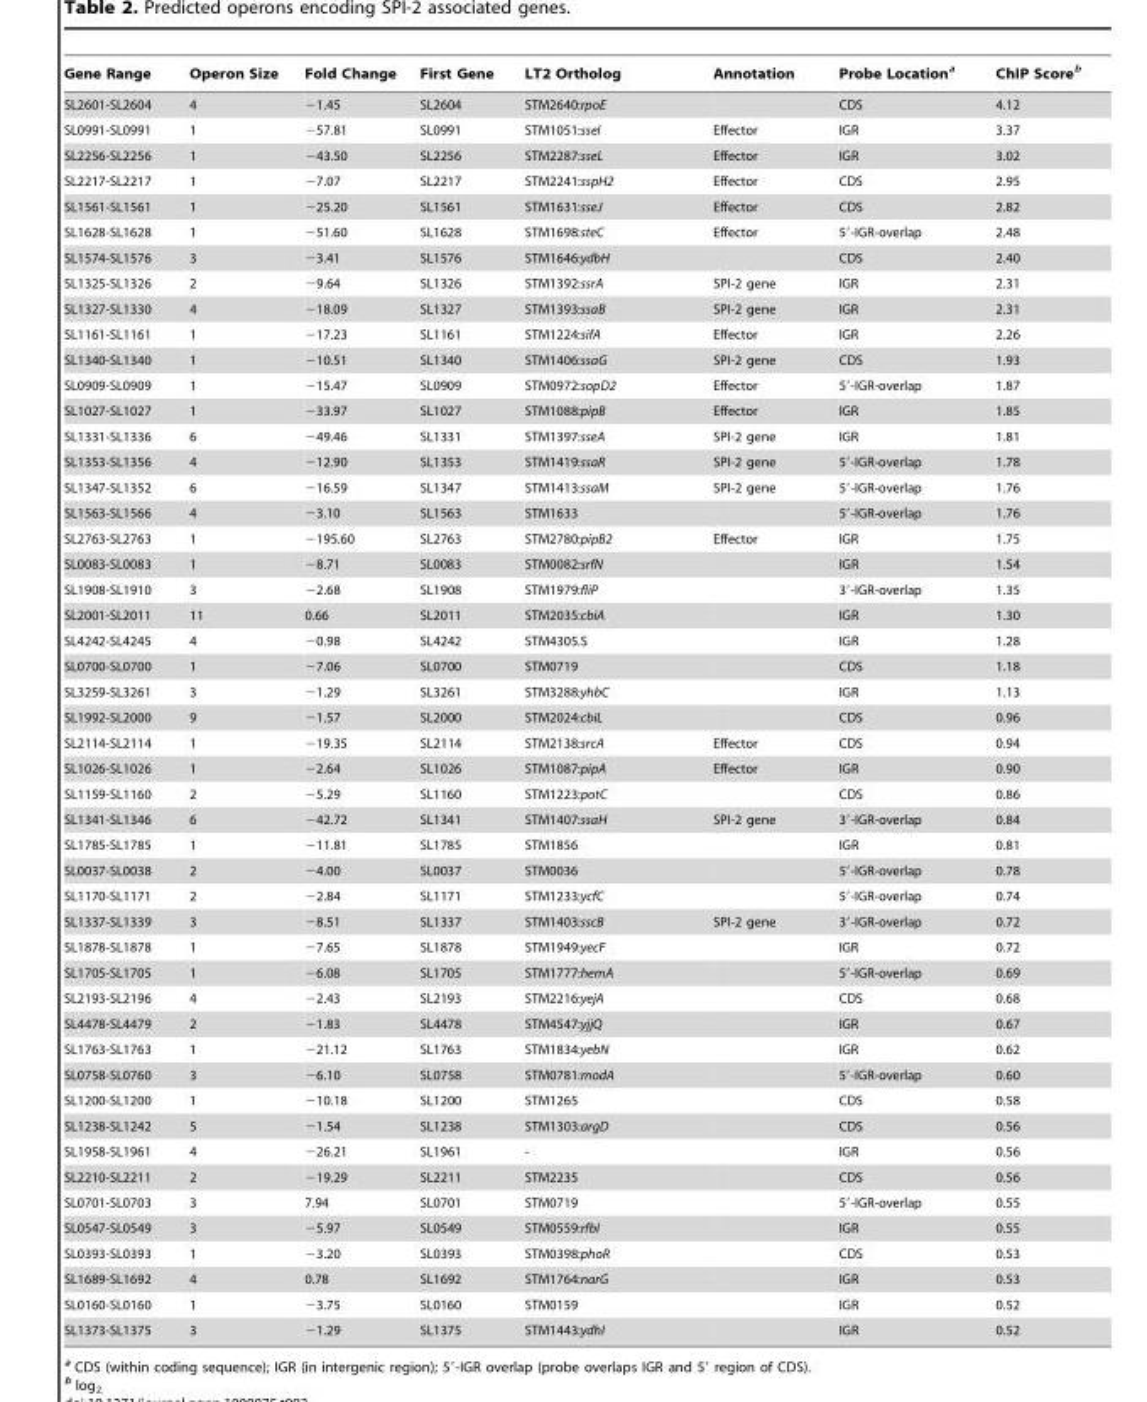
<table><thead><tr><td>Gene Range</td><td>Operon Size</td><td>Fold Change</td><td>First Gene</td><td>LT2 Ortholog</td><td>Annotation</td><td>Probe Location<sup>a</sup></td><td>ChIP Score<sup>b</sup></td></tr></thead><tbody><tr><td>SL2601-SL2604</td><td>4</td><td>−1.45</td><td>SL2604</td><td>STM2640:rpoE</td><td></td><td>CDS</td><td>4.12</td></tr><tr><td>SL0991-SL0991</td><td>1</td><td>−57.81</td><td>SL0991</td><td>STM1051:sseI</td><td>Effector</td><td>IGR</td><td>3.37</td></tr><tr><td>SL2256-SL2256</td><td>1</td><td>−43.50</td><td>SL2256</td><td>STM2287:sseL</td><td>Effector</td><td>IGR</td><td>3.02</td></tr><tr><td>SL2217-SL2217</td><td>1</td><td>−7.07</td><td>SL2217</td><td>STM2241:sspH2</td><td>Effector</td><td>CDS</td><td>2.95</td></tr><tr><td>SL1561-SL1561</td><td>1</td><td>−25.20</td><td>SL1561</td><td>STM1631:sseJ</td><td>Effector</td><td>CDS</td><td>2.82</td></tr><tr><td>SL1628-SL1628</td><td>1</td><td>−51.60</td><td>SL1628</td><td>STM1698:steC</td><td>Effector</td><td>5′-IGR-overlap</td><td>2.48</td></tr><tr><td>SL1574-SL1576</td><td>3</td><td>−3.41</td><td>SL1576</td><td>STM1646:ydbH</td><td></td><td>CDS</td><td>2.40</td></tr><tr><td>SL1325-SL1326</td><td>2</td><td>−9.64</td><td>SL1326</td><td>STM1392:ssrA</td><td>SPI-2 gene</td><td>IGR</td><td>2.31</td></tr><tr><td>SL1327-SL1330</td><td>4</td><td>−18.09</td><td>SL1327</td><td>STM1393:ssaB</td><td>SPI-2 gene</td><td>IGR</td><td>2.31</td></tr><tr><td>SL1161-SL1161</td><td>1</td><td>−17.23</td><td>SL1161</td><td>STM1224:sifA</td><td>Effector</td><td>IGR</td><td>2.26</td></tr><tr><td>SL1340-SL1340</td><td>1</td><td>−10.51</td><td>SL1340</td><td>STM1406:ssaG</td><td>SPI-2 gene</td><td>CDS</td><td>1.93</td></tr><tr><td>SL0909-SL0909</td><td>1</td><td>−15.47</td><td>SL0909</td><td>STM0972:sopD2</td><td>Effector</td><td>5′-IGR-overlap</td><td>1.87</td></tr><tr><td>SL1027-SL1027</td><td>1</td><td>−33.97</td><td>SL1027</td><td>STM1088:pipB</td><td>Effector</td><td>IGR</td><td>1.85</td></tr><tr><td>SL1331-SL1336</td><td>6</td><td>−49.46</td><td>SL1331</td><td>STM1397:sseA</td><td>SPI-2 gene</td><td>IGR</td><td>1.81</td></tr><tr><td>SL1353-SL1356</td><td>4</td><td>−12.90</td><td>SL1353</td><td>STM1419:ssaR</td><td>SPI-2 gene</td><td>5′-IGR-overlap</td><td>1.78</td></tr><tr><td>SL1347-SL1352</td><td>6</td><td>−16.59</td><td>SL1347</td><td>STM1413:ssaM</td><td>SPI-2 gene</td><td>5′-IGR-overlap</td><td>1.76</td></tr><tr><td>SL1563-SL1566</td><td>4</td><td>−3.10</td><td>SL1563</td><td>STM1633</td><td></td><td>5′-IGR-overlap</td><td>1.76</td></tr><tr><td>SL2763-SL2763</td><td>1</td><td>−195.60</td><td>SL2763</td><td>STM2780:pipB2</td><td>Effector</td><td>IGR</td><td>1.75</td></tr><tr><td>SL0083-SL0083</td><td>1</td><td>−8.71</td><td>SL0083</td><td>STM0082:srfN</td><td></td><td>IGR</td><td>1.54</td></tr><tr><td>SL1908-SL1910</td><td>3</td><td>−2.68</td><td>SL1908</td><td>STM1979:fliP</td><td></td><td>3′-IGR-overlap</td><td>1.35</td></tr><tr><td>SL2001-SL2011</td><td>11</td><td>0.66</td><td>SL2011</td><td>STM2035:cbiA</td><td></td><td>IGR</td><td>1.30</td></tr><tr><td>SL4242-SL4245</td><td>4</td><td>−0.98</td><td>SL4242</td><td>STM4305.S</td><td></td><td>IGR</td><td>1.28</td></tr><tr><td>SL0700-SL0700</td><td>1</td><td>−7.06</td><td>SL0700</td><td>STM0719</td><td></td><td>CDS</td><td>1.18</td></tr><tr><td>SL3259-SL3261</td><td>3</td><td>−1.29</td><td>SL3261</td><td>STM3288:yhbC</td><td></td><td>IGR</td><td>1.13</td></tr><tr><td>SL1992-SL2000</td><td>9</td><td>−1.57</td><td>SL2000</td><td>STM2024:cbiL</td><td></td><td>CDS</td><td>0.96</td></tr><tr><td>SL2114-SL2114</td><td>1</td><td>−19.35</td><td>SL2114</td><td>STM2138:srcA</td><td>Effector</td><td>CDS</td><td>0.94</td></tr><tr><td>SL1026-SL1026</td><td>1</td><td>−2.64</td><td>SL1026</td><td>STM1087:pipA</td><td>Effector</td><td>IGR</td><td>0.90</td></tr><tr><td>SL1159-SL1160</td><td>2</td><td>−5.29</td><td>SL1160</td><td>STM1223:potC</td><td></td><td>CDS</td><td>0.86</td></tr><tr><td>SL1341-SL1346</td><td>6</td><td>−42.72</td><td>SL1341</td><td>STM1407:ssaH</td><td>SPI-2 gene</td><td>3′-IGR-overlap</td><td>0.84</td></tr><tr><td>SL1785-SL1785</td><td>1</td><td>−11.81</td><td>SL1785</td><td>STM1856</td><td></td><td>IGR</td><td>0.81</td></tr><tr><td>SL0037-SL0038</td><td>2</td><td>−4.00</td><td>SL0037</td><td>STM0036</td><td></td><td>5′-IGR-overlap</td><td>0.78</td></tr><tr><td>SL1170-SL1171</td><td>2</td><td>−2.84</td><td>SL1171</td><td>STM1233:ycfC</td><td></td><td>5′-IGR-overlap</td><td>0.74</td></tr><tr><td>SL1337-SL1339</td><td>3</td><td>−8.51</td><td>SL1337</td><td>STM1403:sscB</td><td>SPI-2 gene</td><td>3′-IGR-overlap</td><td>0.72</td></tr><tr><td>SL1878-SL1878</td><td>1</td><td>−7.65</td><td>SL1878</td><td>STM1949:yecF</td><td></td><td>IGR</td><td>0.72</td></tr><tr><td>SL1705-SL1705</td><td>1</td><td>−6.08</td><td>SL1705</td><td>STM1777:hemA</td><td></td><td>5′-IGR-overlap</td><td>0.69</td></tr><tr><td>SL2193-SL2196</td><td>4</td><td>−2.43</td><td>SL2193</td><td>STM2216:yejA</td><td></td><td>CDS</td><td>0.68</td></tr><tr><td>SL4478-SL4479</td><td>2</td><td>−1.83</td><td>SL4478</td><td>STM4547:yjjQ</td><td></td><td>IGR</td><td>0.67</td></tr><tr><td>SL1763-SL1763</td><td>1</td><td>−21.12</td><td>SL1763</td><td>STM1834:yebN</td><td></td><td>IGR</td><td>0.62</td></tr><tr><td>SL0758-SL0760</td><td>3</td><td>−6.10</td><td>SL0758</td><td>STM0781:modA</td><td></td><td>5′-IGR-overlap</td><td>0.60</td></tr><tr><td>SL1200-SL1200</td><td>1</td><td>−10.18</td><td>SL1200</td><td>STM1265</td><td></td><td>CDS</td><td>0.58</td></tr><tr><td>SL1238-SL1242</td><td>5</td><td>−1.54</td><td>SL1238</td><td>STM1303:argD</td><td></td><td>CDS</td><td>0.56</td></tr><tr><td>SL1958-SL1961</td><td>4</td><td>−26.21</td><td>SL1961</td><td>-</td><td></td><td>IGR</td><td>0.56</td></tr><tr><td>SL2210-SL2211</td><td>2</td><td>−19.29</td><td>SL2211</td><td>STM2235</td><td></td><td>CDS</td><td>0.56</td></tr><tr><td>SL0701-SL0703</td><td>3</td><td>7.94</td><td>SL0701</td><td>STM0719</td><td></td><td>5′-IGR-overlap</td><td>0.55</td></tr><tr><td>SL0547-SL0549</td><td>3</td><td>−5.97</td><td>SL0549</td><td>STM0559:rfbI</td><td></td><td>IGR</td><td>0.55</td></tr><tr><td>SL0393-SL0393</td><td>1</td><td>−3.20</td><td>SL0393</td><td>STM0398:phoR</td><td></td><td>CDS</td><td>0.53</td></tr><tr><td>SL1689-SL1692</td><td>4</td><td>0.78</td><td>SL1692</td><td>STM1764:narG</td><td></td><td>IGR</td><td>0.53</td></tr><tr><td>SL0160-SL0160</td><td>1</td><td>−3.75</td><td>SL0160</td><td>STM0159</td><td></td><td>IGR</td><td>0.52</td></tr><tr><td>SL1373-SL1375</td><td>3</td><td>−1.29</td><td>SL1375</td><td>STM1443:ydhI</td><td></td><td>IGR</td><td>0.52</td></tr></tbody></table>